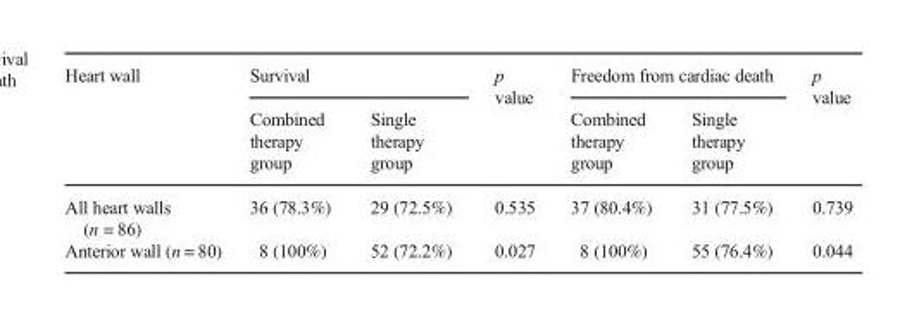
<table><thead><tr><td rowspan="2">Heart wall</td><td colspan="2">Survival</td><td rowspan="2">p value</td><td colspan="2">Freedom from cardiac death</td><td rowspan="2">p value</td></tr><tr><td>Combined therapy group</td><td>Single therapy group</td><td>Combined therapy group</td><td>Single therapy group</td></tr></thead><tbody><tr><td>All heart walls (n = 86)</td><td>36 (78.3%)</td><td>29 (72.5%)</td><td>0.535</td><td>37 (80.4%)</td><td>31 (77.5%)</td><td>0.739</td></tr><tr><td>Anterior wall (n = 80)</td><td>8 (100%)</td><td>52 (72.2%)</td><td>0.027</td><td>8 (100%)</td><td>55 (76.4%)</td><td>0.044</td></tr></tbody></table>